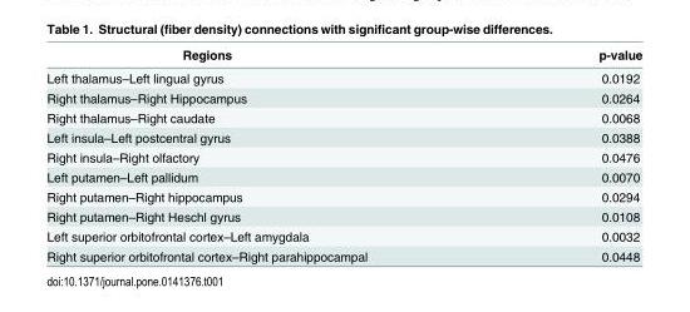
<table><thead><tr><td>Regions</td><td>p-value</td></tr></thead><tbody><tr><td>Left thalamus–Left lingual gyrus</td><td>0.0192</td></tr><tr><td>Right thalamus–Right Hippocampus</td><td>0.0264</td></tr><tr><td>Right thalamus–Right caudate</td><td>0.0068</td></tr><tr><td>Left insula–Left postcentral gyrus</td><td>0.0388</td></tr><tr><td>Right insula–Right olfactory</td><td>0.0476</td></tr><tr><td>Left putamen–Left pallidum</td><td>0.0070</td></tr><tr><td>Right putamen–Right hippocampus</td><td>0.0294</td></tr><tr><td>Right putamen–Right Heschl gyrus</td><td>0.0108</td></tr><tr><td>Left superior orbitofrontal cortex–Left amygdala</td><td>0.0032</td></tr><tr><td>Right superior orbitofrontal cortex–Right parahippocampal</td><td>0.0448</td></tr></tbody></table>